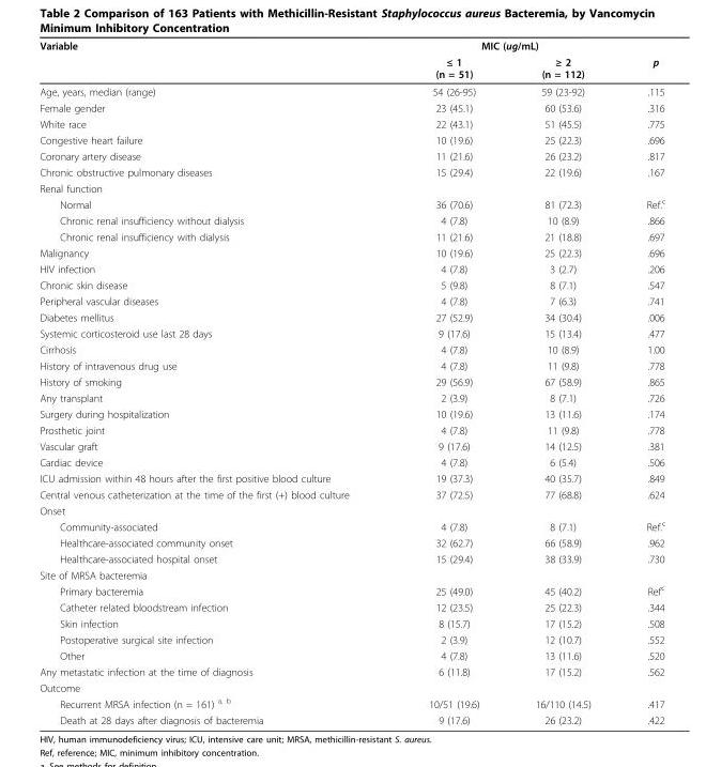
<table><thead><tr><td rowspan="2">Variable</td><td colspan="2">MIC (ug/mL)</td><td rowspan="2">p</td></tr><tr><td>≤ 1 (n = 51)</td><td>≥ 2 (n = 112)</td></tr></thead><tbody><tr><td>Age, years, median (range)</td><td>54 (26-95)</td><td>59 (23-92)</td><td>.115</td></tr><tr><td>Female gender</td><td>23 (45.1)</td><td>60 (53.6)</td><td>.316</td></tr><tr><td>White race</td><td>22 (43.1)</td><td>51 (45.5)</td><td>.775</td></tr><tr><td>Congestive heart failure</td><td>10 (19.6)</td><td>25 (22.3)</td><td>.696</td></tr><tr><td>Coronary artery disease</td><td>11 (21.6)</td><td>26 (23.2)</td><td>.817</td></tr><tr><td>Chronic obstructive pulmonary diseases</td><td>15 (29.4)</td><td>22 (19.6)</td><td>.167</td></tr><tr><td colspan="4">Renal function</td></tr><tr><td>Normal</td><td>36 (70.6)</td><td>81 (72.3)</td><td>Ref.<sup>c</sup></td></tr><tr><td>Chronic renal insufficiency without dialysis</td><td>4 (7.8)</td><td>10 (8.9)</td><td>.866</td></tr><tr><td>Chronic renal insufficiency with dialysis</td><td>11 (21.6)</td><td>21 (18.8)</td><td>.697</td></tr><tr><td>Malignancy</td><td>10 (19.6)</td><td>25 (22.3)</td><td>.696</td></tr><tr><td>HIV infection</td><td>4 (7.8)</td><td>3 (2.7)</td><td>.206</td></tr><tr><td>Chronic skin disease</td><td>5 (9.8)</td><td>8 (7.1)</td><td>.547</td></tr><tr><td>Peripheral vascular diseases</td><td>4 (7.8)</td><td>7 (6.3)</td><td>.741</td></tr><tr><td>Diabetes mellitus</td><td>27 (52.9)</td><td>34 (30.4)</td><td>.006</td></tr><tr><td>Systemic corticosteroid use last 28 days</td><td>9 (17.6)</td><td>15 (13.4)</td><td>.477</td></tr><tr><td>Cirrhosis</td><td>4 (7.8)</td><td>10 (8.9)</td><td>1.00</td></tr><tr><td>History of intravenous drug use</td><td>4 (7.8)</td><td>11 (9.8)</td><td>.778</td></tr><tr><td>History of smoking</td><td>29 (56.9)</td><td>67 (58.9)</td><td>.865</td></tr><tr><td>Any transplant</td><td>2 (3.9)</td><td>8 (7.1)</td><td>.726</td></tr><tr><td>Surgery during hospitalization</td><td>10 (19.6)</td><td>13 (11.6)</td><td>.174</td></tr><tr><td>Prosthetic joint</td><td>4 (7.8)</td><td>11 (9.8)</td><td>.778</td></tr><tr><td>Vascular graft</td><td>9 (17.6)</td><td>14 (12.5)</td><td>.381</td></tr><tr><td>Cardiac device</td><td>4 (7.8)</td><td>6 (5.4)</td><td>.506</td></tr><tr><td>ICU admission within 48 hours after the first positive blood culture</td><td>19 (37.3)</td><td>40 (35.7)</td><td>.849</td></tr><tr><td>Central venous catheterization at the time of the first (+) blood culture</td><td>37 (72.5)</td><td>77 (68.8)</td><td>.624</td></tr><tr><td colspan="4">Onset</td></tr><tr><td>Community-associated</td><td>4 (7.8)</td><td>8 (7.1)</td><td>Ref.<sup>c</sup></td></tr><tr><td>Healthcare-associated community onset</td><td>32 (62.7)</td><td>66 (58.9)</td><td>.962</td></tr><tr><td>Healthcare-associated hospital onset</td><td>15 (29.4)</td><td>38 (33.9)</td><td>.730</td></tr><tr><td colspan="4">Site of MRSA bacteremia</td></tr><tr><td>Primary bacteremia</td><td>25 (49.0)</td><td>45 (40.2)</td><td>Ref<sup>c</sup></td></tr><tr><td>Catheter related bloodstream infection</td><td>12 (23.5)</td><td>25 (22.3)</td><td>.344</td></tr><tr><td>Skin infection</td><td>8 (15.7)</td><td>17 (15.2)</td><td>.508</td></tr><tr><td>Postoperative surgical site infection</td><td>2 (3.9)</td><td>12 (10.7)</td><td>.552</td></tr><tr><td>Other</td><td>4 (7.8)</td><td>13 (11.6)</td><td>.520</td></tr><tr><td>Any metastatic infection at the time of diagnosis</td><td>6 (11.8)</td><td>17 (15.2)</td><td>.562</td></tr><tr><td colspan="4">Outcome</td></tr><tr><td>Recurrent MRSA infection (n = 161) <sup>a, b</sup></td><td>10/51 (19.6)</td><td>16/110 (14.5)</td><td>.417</td></tr><tr><td>Death at 28 days after diagnosis of bacteremia</td><td>9 (17.6)</td><td>26 (23.2)</td><td>.422</td></tr></tbody></table>